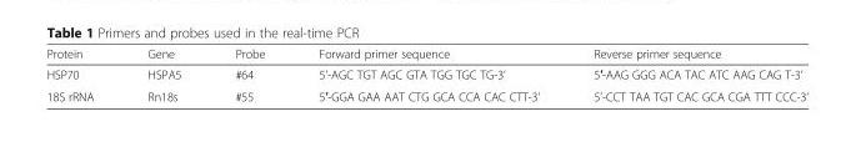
<table><thead><tr><td>Protein</td><td>Gene</td><td>Probe</td><td>Forward primer sequence</td><td>Reverse primer sequence</td></tr></thead><tbody><tr><td>HSP70</td><td>HSPA5</td><td>#64</td><td>5’-AGC TGT AGC GTA TGG TGC TG-3’</td><td>5′-AAG GGG ACA TAC ATC AAG CAG T-3’</td></tr><tr><td>18S rRNA</td><td>Rn18s</td><td>#55</td><td>5′-GGA GAA AAT CTG GCA CCA CAC CTT-3’</td><td>5’-CCT TAA TGT CAC GCA CGA TTT CCC-3’</td></tr></tbody></table>